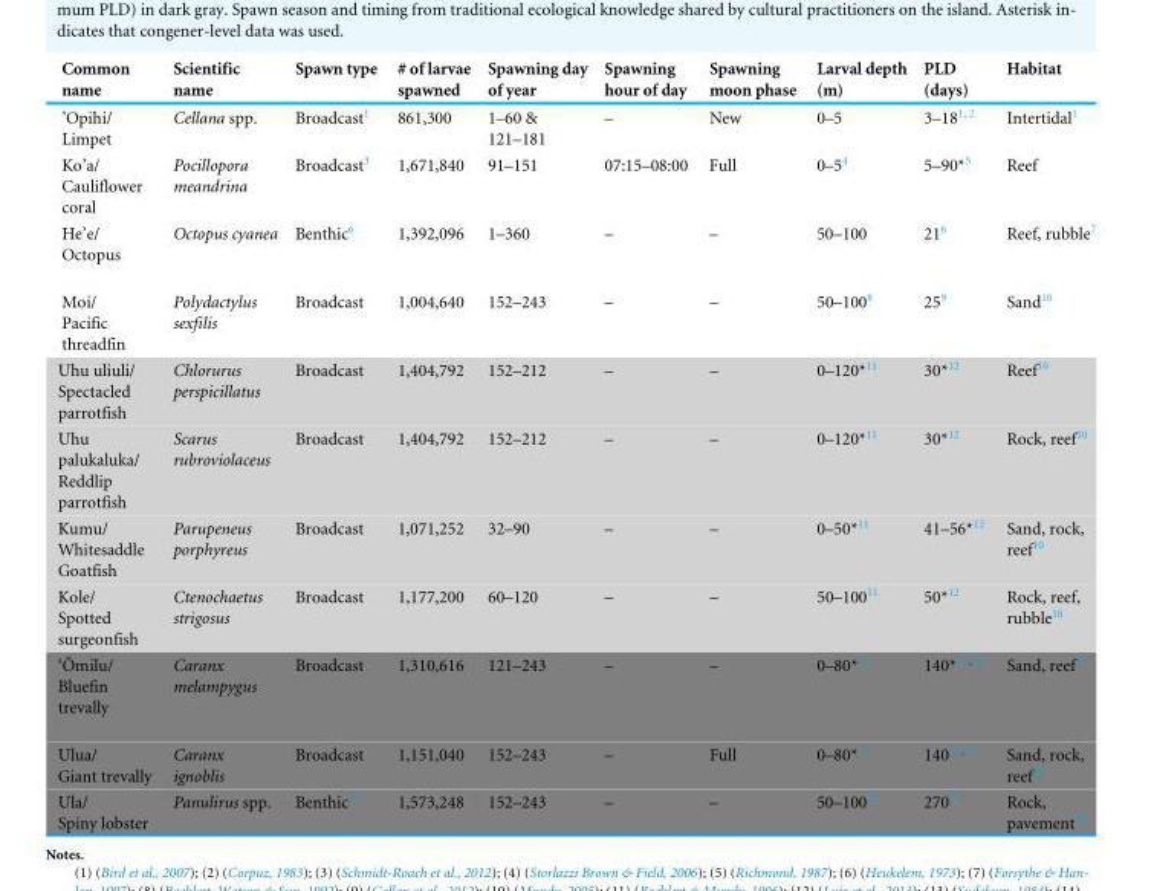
<table><thead><tr><td>Common name</td><td>Scientific name</td><td>Spawn type</td><td># of larvae spawned</td><td>Spawning day of year</td><td>Spawning hour of day</td><td>Spawning moon phase</td><td>Larval depth (m)</td><td>PLD (days)</td><td>Habitat</td></tr></thead><tbody><tr><td>’Opihi/ Limpet</td><td>Cellana spp.</td><td>Broadcast<sup>1</sup></td><td>861,300</td><td>1–60 &amp; 121–181</td><td>–</td><td>New</td><td>0–5</td><td>3–18<sup>1,2</sup></td><td>Intertidal<sup>1</sup></td></tr><tr><td>Ko’a/ Cauliflower coral</td><td>Pocillopora meandrina</td><td>Broadcast<sup>3</sup></td><td>1,671,840</td><td>91–151</td><td>07:15–08:00</td><td>Full</td><td>0–5<sup>4</sup></td><td>5–90*<sup>5</sup></td><td>Reef</td></tr><tr><td>He’e/ Octopus</td><td>Octopus cyanea</td><td>Benthic<sup>6</sup></td><td>1,392,096</td><td>1–360</td><td>–</td><td>–</td><td>50–100</td><td>21<sup>6</sup></td><td>Reef, rubble<sup>7</sup></td></tr><tr><td>Moi/ Pacific threadfin</td><td>Polydactylus sexfilis</td><td>Broadcast</td><td>1,004,640</td><td>152–243</td><td>–</td><td>–</td><td>50–100<sup>8</sup></td><td>25<sup>9</sup></td><td>Sand<sup>10</sup></td></tr><tr><td>Uhu uliuli/ Spectacled parrotfish</td><td>Chlorurus perspicillatus</td><td>Broadcast</td><td>1,404,792</td><td>152–212</td><td>–</td><td>–</td><td>0–120*<sup>11</sup></td><td>30*<sup>12</sup></td><td>Reef<sup>10</sup></td></tr><tr><td>Uhu palukaluka/ Reddlip parrotfish</td><td>Scarus rubroviolaceus</td><td>Broadcast</td><td>1,404,792</td><td>152–212</td><td>–</td><td>–</td><td>0–120*<sup>11</sup></td><td>30*<sup>12</sup></td><td>Rock, reef<sup>10</sup></td></tr><tr><td>Kumu/ Whitesaddle Goatfish</td><td>Parupeneus porphyreus</td><td>Broadcast</td><td>1,071,252</td><td>32–90</td><td>–</td><td>–</td><td>0–50*<sup>11</sup></td><td>41–56*<sup>12</sup></td><td>Sand, rock, reef<sup>10</sup></td></tr><tr><td>Kole/ Spotted surgeonfish</td><td>Ctenochaetus strigosus</td><td>Broadcast</td><td>1,177,200</td><td>60–120</td><td>–</td><td>–</td><td>50–100<sup>11</sup></td><td>50*<sup>12</sup></td><td>Rock, reef, rubble<sup>10</sup></td></tr><tr><td>‘ ¯Omilu/ Bluefin trevally</td><td>Caranx melampygus</td><td>Broadcast</td><td>1,310,616</td><td>121–243</td><td>–</td><td>–</td><td>0–80*<sup>11</sup></td><td>140*<sup>13,14</sup></td><td>Sand, reef<sup>10</sup></td></tr><tr><td>Ulua/ Giant trevally</td><td>Caranx ignoblis</td><td>Broadcast</td><td>1,151,040</td><td>152–243</td><td>–</td><td>Full</td><td>0–80*<sup>11</sup></td><td>140<sup>13,14</sup></td><td>Sand, rock, reef<sup>10</sup></td></tr><tr><td>Ula/ Spiny lobster</td><td>Panulirus spp.</td><td>Benthic<sup>15</sup></td><td>1,573,248</td><td>152–243</td><td>–</td><td>–</td><td>50–100<sup>16</sup></td><td>270<sup>17</sup></td><td>Rock, pavement<sup>16</sup></td></tr></tbody></table>